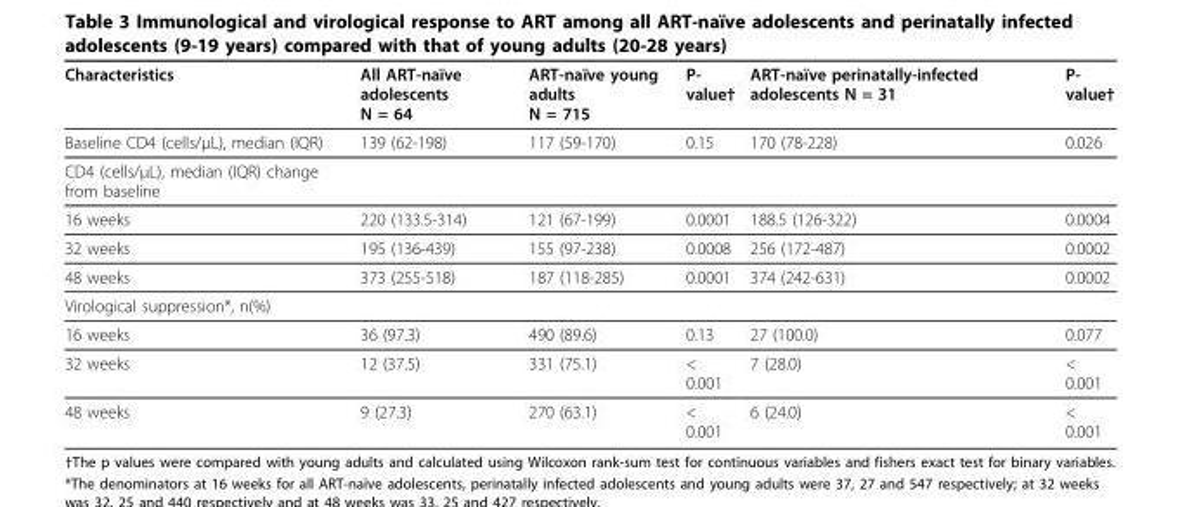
<table><thead><tr><td>Characteristics</td><td>All ART-naïve adolescents N = 64</td><td>ART-naïve young adults N = 715</td><td>P- value†</td><td>ART-naïve perinatally-infected adolescents N = 31</td><td>P- value†</td></tr></thead><tbody><tr><td>Baseline CD4 (cells/μL), median (IQR)</td><td>139 (62-198)</td><td>117 (59-170)</td><td>0.15</td><td>170 (78-228)</td><td>0.026</td></tr><tr><td colspan="6">CD4 (cells/μL), median (IQR) change from baseline</td></tr><tr><td>16 weeks</td><td>220 (133.5-314)</td><td>121 (67-199)</td><td>0.0001</td><td>188.5 (126-322)</td><td>0.0004</td></tr><tr><td>32 weeks</td><td>195 (136-439)</td><td>155 (97-238)</td><td>0.0008</td><td>256 (172-487)</td><td>0.0002</td></tr><tr><td>48 weeks</td><td>373 (255-518)</td><td>187 (118-285)</td><td>0.0001</td><td>374 (242-631)</td><td>0.0002</td></tr><tr><td colspan="6">Virological suppression*, n(%)</td></tr><tr><td>16 weeks</td><td>36 (97.3)</td><td>490 (89.6)</td><td>0.13</td><td>27 (100.0)</td><td>0.077</td></tr><tr><td>32 weeks</td><td>12 (37.5)</td><td>331 (75.1)</td><td>&lt; 0.001</td><td>7 (28.0)</td><td>&lt; 0.001</td></tr><tr><td>48 weeks</td><td>9 (27.3)</td><td>270 (63.1)</td><td>&lt; 0.001</td><td>6 (24.0)</td><td>&lt; 0.001</td></tr></tbody></table>